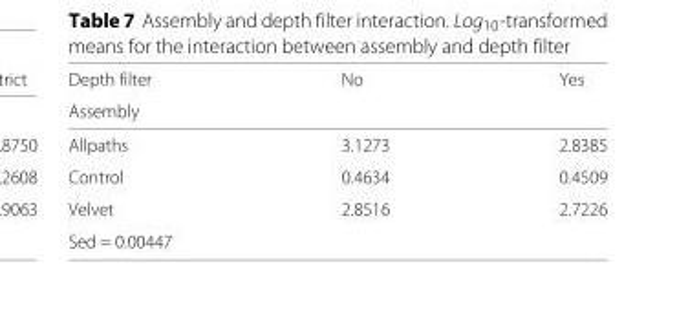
<table><thead><tr><td rowspan="2">Depth filter Assembly</td><td rowspan="2">No</td><td rowspan="2">Yes</td></tr><tr></tr></thead><tbody><tr><td>Allpaths</td><td>3.1273</td><td>2.8385</td></tr><tr><td>Control</td><td>0.4634</td><td>0.4509</td></tr><tr><td>Velvet</td><td>2.8516</td><td>2.7226</td></tr><tr><td>Sed = 0.00447</td><td></td><td></td></tr></tbody></table>